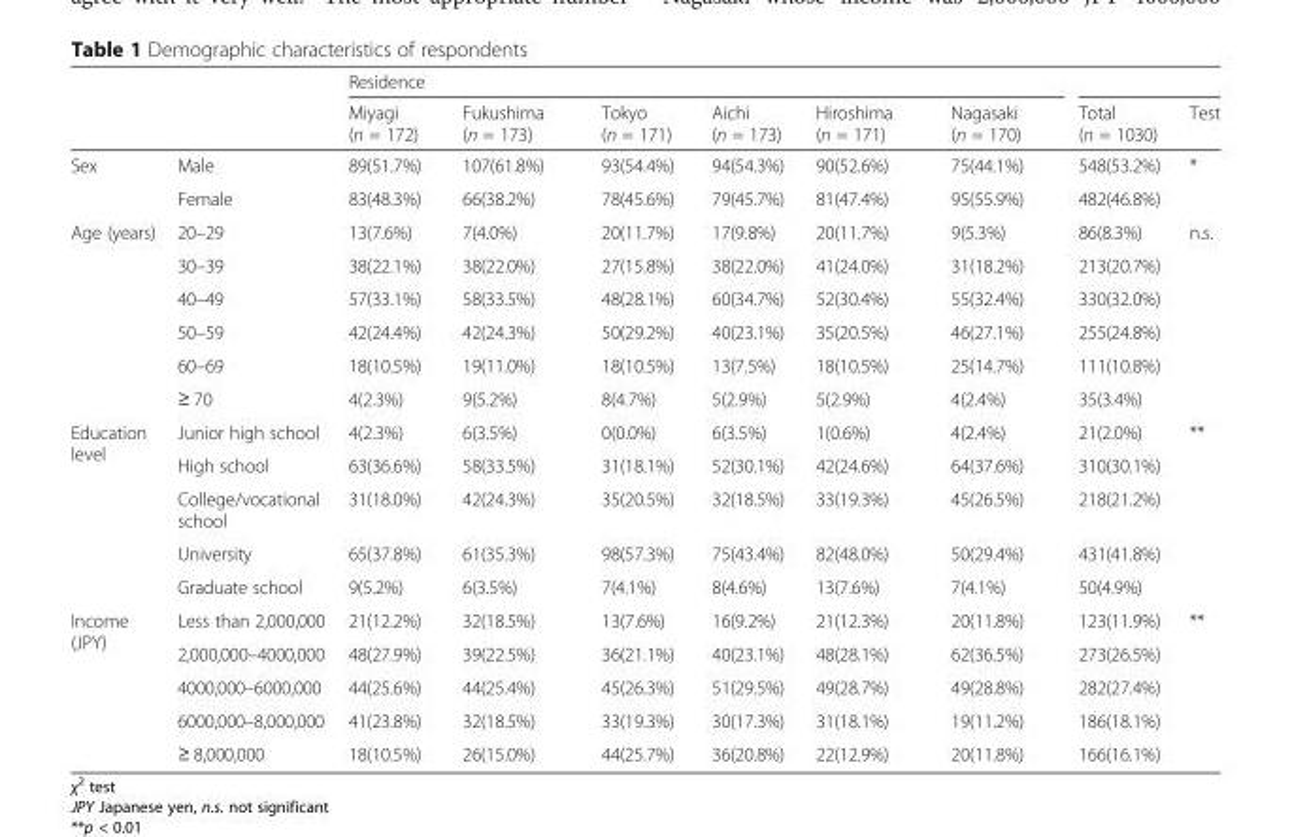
<table><thead><tr><td rowspan="2"></td><td rowspan="2"></td><td colspan="6">Residence</td><td rowspan="2">Total (n = 1030)</td><td rowspan="2">Test</td></tr><tr><td>Miyagi (n = 172)</td><td>Fukushima (n = 173)</td><td>Tokyo (n = 171)</td><td>Aichi (n = 173)</td><td>Hiroshima (n = 171)</td><td>Nagasaki (n = 170)</td></tr></thead><tbody><tr><td rowspan="2">Sex</td><td>Male</td><td>89(51.7%)</td><td>107(61.8%)</td><td>93(54.4%)</td><td>94(54.3%)</td><td>90(52.6%)</td><td>75(44.1%)</td><td>548(53.2%)</td><td rowspan="2">*</td></tr><tr><td>Female</td><td>83(48.3%)</td><td>66(38.2%)</td><td>78(45.6%)</td><td>79(45.7%)</td><td>81(47.4%)</td><td>95(55.9%)</td><td>482(46.8%)</td></tr><tr><td rowspan="6">Age (years)</td><td>20–29</td><td>13(7.6%)</td><td>7(4.0%)</td><td>20(11.7%)</td><td>17(9.8%)</td><td>20(11.7%)</td><td>9(5.3%)</td><td>86(8.3%)</td><td rowspan="6">n.s.</td></tr><tr><td>30–39</td><td>38(22.1%)</td><td>38(22.0%)</td><td>27(15.8%)</td><td>38(22.0%)</td><td>41(24.0%)</td><td>31(18.2%)</td><td>213(20.7%)</td></tr><tr><td>40–49</td><td>57(33.1%)</td><td>58(33.5%)</td><td>48(28.1%)</td><td>60(34.7%)</td><td>52(30.4%)</td><td>55(32.4%)</td><td>330(32.0%)</td></tr><tr><td>50–59</td><td>42(24.4%)</td><td>42(24.3%)</td><td>50(29.2%)</td><td>40(23.1%)</td><td>35(20.5%)</td><td>46(27.1%)</td><td>255(24.8%)</td></tr><tr><td>60–69</td><td>18(10.5%)</td><td>19(11.0%)</td><td>18(10.5%)</td><td>13(7.5%)</td><td>18(10.5%)</td><td>25(14.7%)</td><td>111(10.8%)</td></tr><tr><td>≥ 70</td><td>4(2.3%)</td><td>9(5.2%)</td><td>8(4.7%)</td><td>5(2.9%)</td><td>5(2.9%)</td><td>4(2.4%)</td><td>35(3.4%)</td></tr><tr><td rowspan="5">Education level</td><td>Junior high school</td><td>4(2.3%)</td><td>6(3.5%)</td><td>0(0.0%)</td><td>6(3.5%)</td><td>1(0.6%)</td><td>4(2.4%)</td><td>21(2.0%)</td><td rowspan="5">**</td></tr><tr><td>High school</td><td>63(36.6%)</td><td>58(33.5%)</td><td>31(18.1%)</td><td>52(30.1%)</td><td>42(24.6%)</td><td>64(37.6%)</td><td>310(30.1%)</td></tr><tr><td>College/vocational school</td><td>31(18.0%)</td><td>42(24.3%)</td><td>35(20.5%)</td><td>32(18.5%)</td><td>33(19.3%)</td><td>45(26.5%)</td><td>218(21.2%)</td></tr><tr><td>University</td><td>65(37.8%)</td><td>61(35.3%)</td><td>98(57.3%)</td><td>75(43.4%)</td><td>82(48.0%)</td><td>50(29.4%)</td><td>431(41.8%)</td></tr><tr><td>Graduate school</td><td>9(5.2%)</td><td>6(3.5%)</td><td>7(4.1%)</td><td>8(4.6%)</td><td>13(7.6%)</td><td>7(4.1%)</td><td>50(4.9%)</td></tr><tr><td rowspan="5">Income (JPY)</td><td>Less than 2,000,000</td><td>21(12.2%)</td><td>32(18.5%)</td><td>13(7.6%)</td><td>16(9.2%)</td><td>21(12.3%)</td><td>20(11.8%)</td><td>123(11.9%)</td><td rowspan="5">**</td></tr><tr><td>2,000,000–4000,000</td><td>48(27.9%)</td><td>39(22.5%)</td><td>36(21.1%)</td><td>40(23.1%)</td><td>48(28.1%)</td><td>62(36.5%)</td><td>273(26.5%)</td></tr><tr><td>4000,000–6000,000</td><td>44(25.6%)</td><td>44(25.4%)</td><td>45(26.3%)</td><td>51(29.5%)</td><td>49(28.7%)</td><td>49(28.8%)</td><td>282(27.4%)</td></tr><tr><td>6000,000–8,000,000</td><td>41(23.8%)</td><td>32(18.5%)</td><td>33(19.3%)</td><td>30(17.3%)</td><td>31(18.1%)</td><td>19(11.2%)</td><td>186(18.1%)</td></tr><tr><td>≥ 8,000,000</td><td>18(10.5%)</td><td>26(15.0%)</td><td>44(25.7%)</td><td>36(20.8%)</td><td>22(12.9%)</td><td>20(11.8%)</td><td>166(16.1%)</td></tr></tbody></table>